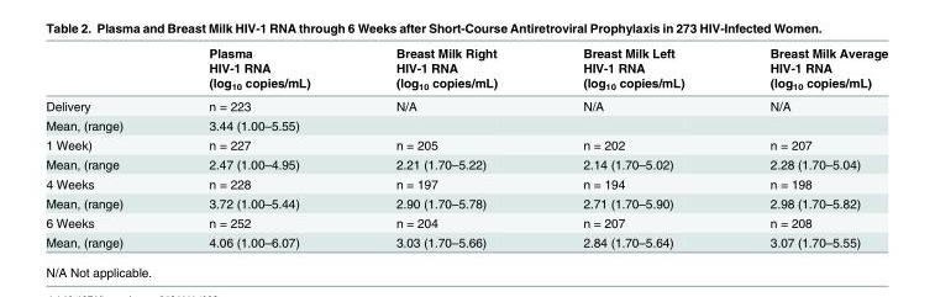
<table><thead><tr><td rowspan="3"></td><td rowspan="3">Plasma HIV-1 RNA (log<sub>10</sub> copies/mL)</td><td rowspan="3">Breast Milk Right HIV-1 RNA (log<sub>10</sub> copies/mL)</td><td rowspan="3">Breast Milk Left HIV-1 RNA (log<sub>10</sub> copies/mL)</td><td rowspan="3">Breast Milk Average HIV-1 RNA (log<sub>10</sub> copies/mL)</td></tr><tr></tr><tr></tr></thead><tbody><tr><td>Delivery</td><td>n = 223</td><td>N/A</td><td>N/A</td><td>N/A</td></tr><tr><td>Mean, (range)</td><td>3.44 (1.00–5.55)</td><td></td><td></td><td></td></tr><tr><td>1 Week)</td><td>n = 227</td><td>n = 205</td><td>n = 202</td><td>n = 207</td></tr><tr><td>Mean, (range</td><td>2.47 (1.00–4.95)</td><td>2.21 (1.70–5.22)</td><td>2.14 (1.70–5.02)</td><td>2.28 (1.70–5.04)</td></tr><tr><td>4 Weeks</td><td>n = 228</td><td>n = 197</td><td>n = 194</td><td>n = 198</td></tr><tr><td>Mean, (range)</td><td>3.72 (1.00–5.44)</td><td>2.90 (1.70–5.78)</td><td>2.71 (1.70–5.90)</td><td>2.98 (1.70–5.82)</td></tr><tr><td>6 Weeks</td><td>n = 252</td><td>n = 204</td><td>n = 207</td><td>n = 208</td></tr><tr><td>Mean, (range)</td><td>4.06 (1.00–6.07)</td><td>3.03 (1.70–5.66)</td><td>2.84 (1.70–5.64)</td><td>3.07 (1.70–5.55)</td></tr></tbody></table>